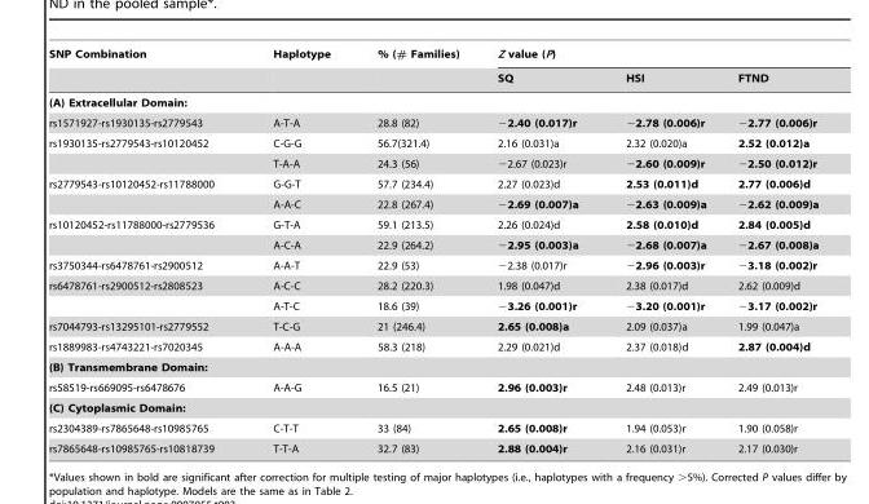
<table><thead><tr><td rowspan="2">SNP Combination</td><td rowspan="2">Haplotype</td><td rowspan="2">% (# Families)</td><td colspan="3">Z value (P)</td></tr><tr><td>SQ</td><td>HSI</td><td>FTND</td></tr></thead><tbody><tr><td colspan="6">(A) Extracellular Domain:</td></tr><tr><td>rs1571927-rs1930135-rs2779543</td><td>A-T-A</td><td>28.8 (82)</td><td>−2.40 (0.017)r</td><td>−2.78 (0.006)r</td><td>−2.77 (0.006)r</td></tr><tr><td rowspan="2">rs1930135-rs2779543-rs10120452</td><td>C-G-G</td><td>56.7(321.4)</td><td>2.16 (0.031)a</td><td>2.32 (0.020)a</td><td>2.52 (0.012)a</td></tr><tr><td>T-A-A</td><td>24.3 (56)</td><td>−2.67 (0.023)r</td><td>−2.60 (0.009)r</td><td>−2.50 (0.012)r</td></tr><tr><td rowspan="2">rs2779543-rs10120452-rs11788000</td><td>G-G-T</td><td>57.7 (234.4)</td><td>2.27 (0.023)d</td><td>2.53 (0.011)d</td><td>2.77 (0.006)d</td></tr><tr><td>A-A-C</td><td>22.8 (267.4)</td><td>−2.69 (0.007)a</td><td>−2.63 (0.009)a</td><td>−2.62 (0.009)a</td></tr><tr><td rowspan="2">rs10120452-rs11788000-rs2779536</td><td>G-T-A</td><td>59.1 (213.5)</td><td>2.26 (0.024)d</td><td>2.58 (0.010)d</td><td>2.84 (0.005)d</td></tr><tr><td>A-C-A</td><td>22.9 (264.2)</td><td>−2.95 (0.003)a</td><td>−2.68 (0.007)a</td><td>−2.67 (0.008)a</td></tr><tr><td>rs3750344-rs6478761-rs2900512</td><td>A-A-T</td><td>22.9 (53)</td><td>−2.38 (0.017)r</td><td>−2.96 (0.003)r</td><td>−3.18 (0.002)r</td></tr><tr><td rowspan="2">rs6478761-rs2900512-rs2808523</td><td>A-C-C</td><td>28.2 (220.3)</td><td>1.98 (0.047)d</td><td>2.38 (0.017)d</td><td>2.62 (0.009)d</td></tr><tr><td>A-T-C</td><td>18.6 (39)</td><td>−3.26 (0.001)r</td><td>−3.20 (0.001)r</td><td>−3.17 (0.002)r</td></tr><tr><td>rs7044793-rs13295101-rs2779552</td><td>T-C-G</td><td>21 (246.4)</td><td>2.65 (0.008)a</td><td>2.09 (0.037)a</td><td>1.99 (0.047)a</td></tr><tr><td>rs1889983-rs4743221-rs7020345</td><td>A-A-A</td><td>58.3 (218)</td><td>2.29 (0.021)d</td><td>2.37 (0.018)d</td><td>2.87 (0.004)d</td></tr><tr><td colspan="6">(B) Transmembrane Domain:</td></tr><tr><td>rs58519-rs669095-rs6478676</td><td>A-A-G</td><td>16.5 (21)</td><td>2.96 (0.003)r</td><td>2.48 (0.013)r</td><td>2.49 (0.013)r</td></tr><tr><td colspan="6">(C) Cytoplasmic Domain:</td></tr><tr><td>rs2304389-rs7865648-rs10985765</td><td>C-T-T</td><td>33 (84)</td><td>2.65 (0.008)r</td><td>1.94 (0.053)r</td><td>1.90 (0.058)r</td></tr><tr><td>rs7865648-rs10985765-rs10818739</td><td>T-T-A</td><td>32.7 (83)</td><td>2.88 (0.004)r</td><td>2.16 (0.031)r</td><td>2.17 (0.030)r</td></tr></tbody></table>